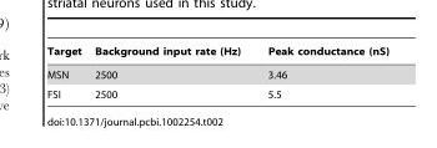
<table><thead><tr><td>Target</td><td>Background input rate (Hz)</td><td>Peak conductance (nS)</td></tr></thead><tbody><tr><td>MSN</td><td>2500</td><td>3.46</td></tr><tr><td>FSI</td><td>2500</td><td>5.5</td></tr></tbody></table>